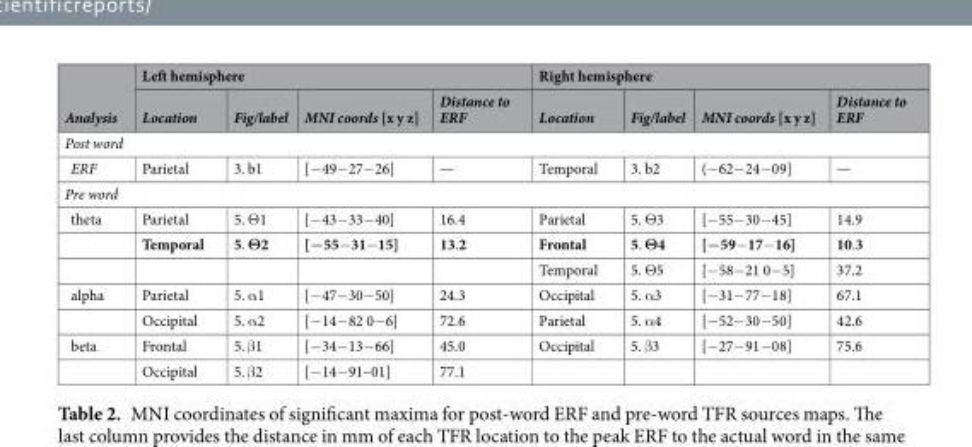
<table><thead><tr><td rowspan="2">Analysis</td><td colspan="4">Left hemisphere</td><td colspan="4">Right hemisphere</td></tr><tr><td>Location</td><td>Fig/label</td><td>MNI coords [x y z]</td><td>Distance to ERF</td><td>Location</td><td>Fig/label</td><td>MNI coords [x y z]</td><td>Distance to ERF</td></tr></thead><tbody><tr><td colspan="9">Post word</td></tr><tr><td>ERF</td><td>Parietal</td><td>3. b1</td><td>[−49−27−26]</td><td>—</td><td>Temporal</td><td>3. b2</td><td>(−62−24−09]</td><td>—</td></tr><tr><td colspan="9">Pre word</td></tr><tr><td rowspan="3">theta</td><td>Parietal</td><td>5. Θ1</td><td>[−43−33−40]</td><td>16.4</td><td>Parietal</td><td>5. Θ3</td><td>[−55−30−45]</td><td>14.9</td></tr><tr><td>Temporal</td><td>5. Θ2</td><td>[−55−31−15]</td><td>13.2</td><td>Frontal</td><td>5. Θ4</td><td>[−59−17−16]</td><td>10.3</td></tr><tr><td></td><td></td><td></td><td></td><td>Temporal</td><td>5. Θ5</td><td>[−58−21 0−5]</td><td>37.2</td></tr><tr><td rowspan="2">alpha</td><td>Parietal</td><td>5. α1</td><td>[−47−30−50]</td><td>24.3</td><td>Occipital</td><td>5. α3</td><td>[−31−77−18]</td><td>67.1</td></tr><tr><td>Occipital</td><td>5. α2</td><td>[−14−82 0−6]</td><td>72.6</td><td>Parietal</td><td>5. α4</td><td>[−52−30−50]</td><td>42.6</td></tr><tr><td rowspan="2">beta</td><td>Frontal</td><td>5. β1</td><td>[−34−13−66]</td><td>45.0</td><td>Occipital</td><td>5. β3</td><td>[−27−91−08]</td><td>75.6</td></tr><tr><td>Occipital</td><td>5. β2</td><td>[−14−91–01]</td><td>77.1</td><td></td><td></td><td></td><td></td></tr></tbody></table>